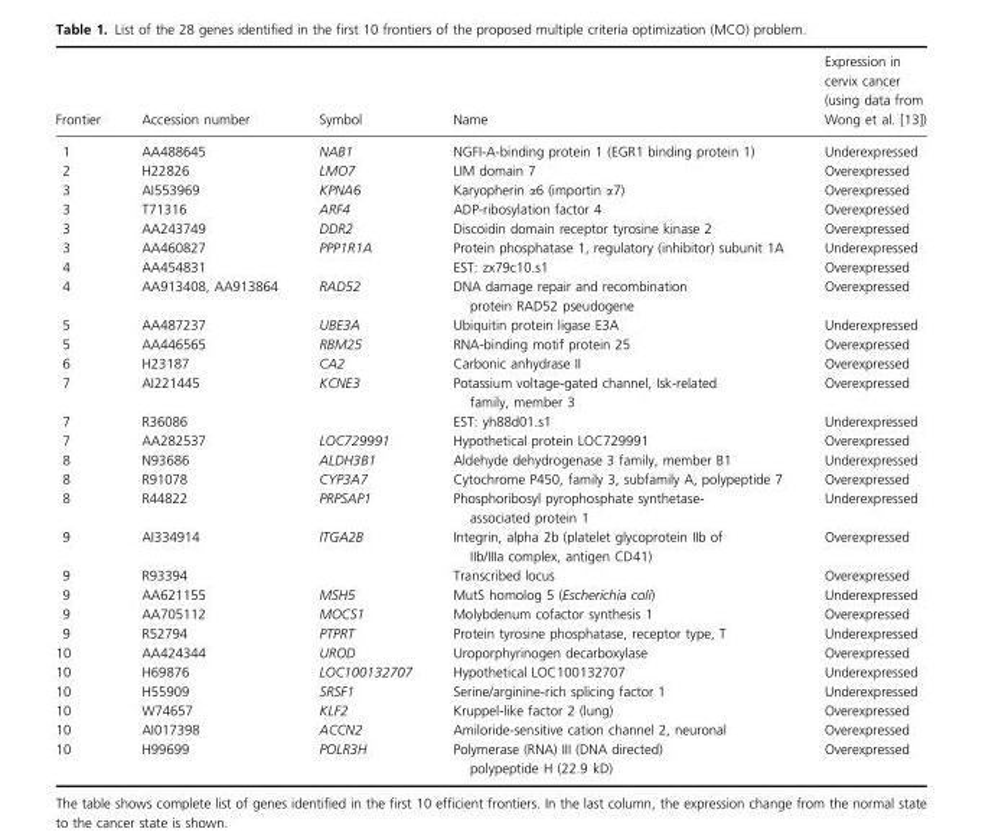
<table><thead><tr><td>Frontier</td><td>Accession number</td><td>Symbol</td><td>Name</td><td>Expression in cervix cancer (using data from Wong et al. [13])</td></tr></thead><tbody><tr><td>1</td><td>AA488645</td><td>NAB1</td><td>NGFI-A-binding protein 1 (EGR1 binding protein 1)</td><td>Underexpressed</td></tr><tr><td>2</td><td>H22826</td><td>LMO7</td><td>LIM domain 7</td><td>Overexpressed</td></tr><tr><td>3</td><td>AI553969</td><td>KPNA6</td><td>Karyopherin α6 (importin α7)</td><td>Overexpressed</td></tr><tr><td>3</td><td>T71316</td><td>ARF4</td><td>ADP-ribosylation factor 4</td><td>Overexpressed</td></tr><tr><td>3</td><td>AA243749</td><td>DDR2</td><td>Discoidin domain receptor tyrosine kinase 2</td><td>Overexpressed</td></tr><tr><td>3</td><td>AA460827</td><td>PPP1R1A</td><td>Protein phosphatase 1, regulatory (inhibitor) subunit 1A</td><td>Underexpressed</td></tr><tr><td>4</td><td>AA454831</td><td></td><td>EST: zx79c10.s1</td><td>Overexpressed</td></tr><tr><td>4</td><td>AA913408, AA913864</td><td>RAD52</td><td>DNA damage repair and recombination protein RAD52 pseudogene</td><td>Overexpressed</td></tr><tr><td>5</td><td>AA487237</td><td>UBE3A</td><td>Ubiquitin protein ligase E3A</td><td>Underexpressed</td></tr><tr><td>5</td><td>AA446565</td><td>RBM25</td><td>RNA-binding motif protein 25</td><td>Overexpressed</td></tr><tr><td>6</td><td>H23187</td><td>CA2</td><td>Carbonic anhydrase II</td><td>Overexpressed</td></tr><tr><td>7</td><td>AI221445</td><td>KCNE3</td><td>Potassium voltage-gated channel, Isk-related family, member 3</td><td>Overexpressed</td></tr><tr><td>7</td><td>R36086</td><td></td><td>EST: yh88d01.s1</td><td>Underexpressed</td></tr><tr><td>7</td><td>AA282537</td><td>LOC729991</td><td>Hypothetical protein LOC729991</td><td>Overexpressed</td></tr><tr><td>8</td><td>N93686</td><td>ALDH3B1</td><td>Aldehyde dehydrogenase 3 family, member B1</td><td>Underexpressed</td></tr><tr><td>8</td><td>R91078</td><td>CYP3A7</td><td>Cytochrome P450, family 3, subfamily A, polypeptide 7</td><td>Overexpressed</td></tr><tr><td>8</td><td>R44822</td><td>PRPSAP1</td><td>Phosphoribosyl pyrophosphate synthetase- associated protein 1</td><td>Underexpressed</td></tr><tr><td>9</td><td>AI334914</td><td>ITGA2B</td><td>Integrin, alpha 2b (platelet glycoprotein IIb of IIb/IIIa complex, antigen CD41)</td><td>Overexpressed</td></tr><tr><td>9</td><td>R93394</td><td></td><td>Transcribed locus</td><td>Overexpressed</td></tr><tr><td>9</td><td>AA621155</td><td>MSH5</td><td>MutS homolog 5 (Escherichia coli)</td><td>Underexpressed</td></tr><tr><td>9</td><td>AA705112</td><td>MOCS1</td><td>Molybdenum cofactor synthesis 1</td><td>Overexpressed</td></tr><tr><td>9</td><td>R52794</td><td>PTPRT</td><td>Protein tyrosine phosphatase, receptor type, T</td><td>Underexpressed</td></tr><tr><td>10</td><td>AA424344</td><td>UROD</td><td>Uroporphyrinogen decarboxylase</td><td>Overexpressed</td></tr><tr><td>10</td><td>H69876</td><td>LOC100132707</td><td>Hypothetical LOC100132707</td><td>Underexpressed</td></tr><tr><td>10</td><td>H55909</td><td>SRSF1</td><td>Serine/arginine-rich splicing factor 1</td><td>Underexpressed</td></tr><tr><td>10</td><td>W74657</td><td>KLF2</td><td>Kruppel-like factor 2 (lung)</td><td>Overexpressed</td></tr><tr><td>10</td><td>AI017398</td><td>ACCN2</td><td>Amiloride-sensitive cation channel 2, neuronal</td><td>Overexpressed</td></tr><tr><td>10</td><td>H99699</td><td>POLR3H</td><td>Polymerase (RNA) III (DNA directed) polypeptide H (22.9 kD)</td><td>Overexpressed</td></tr></tbody></table>